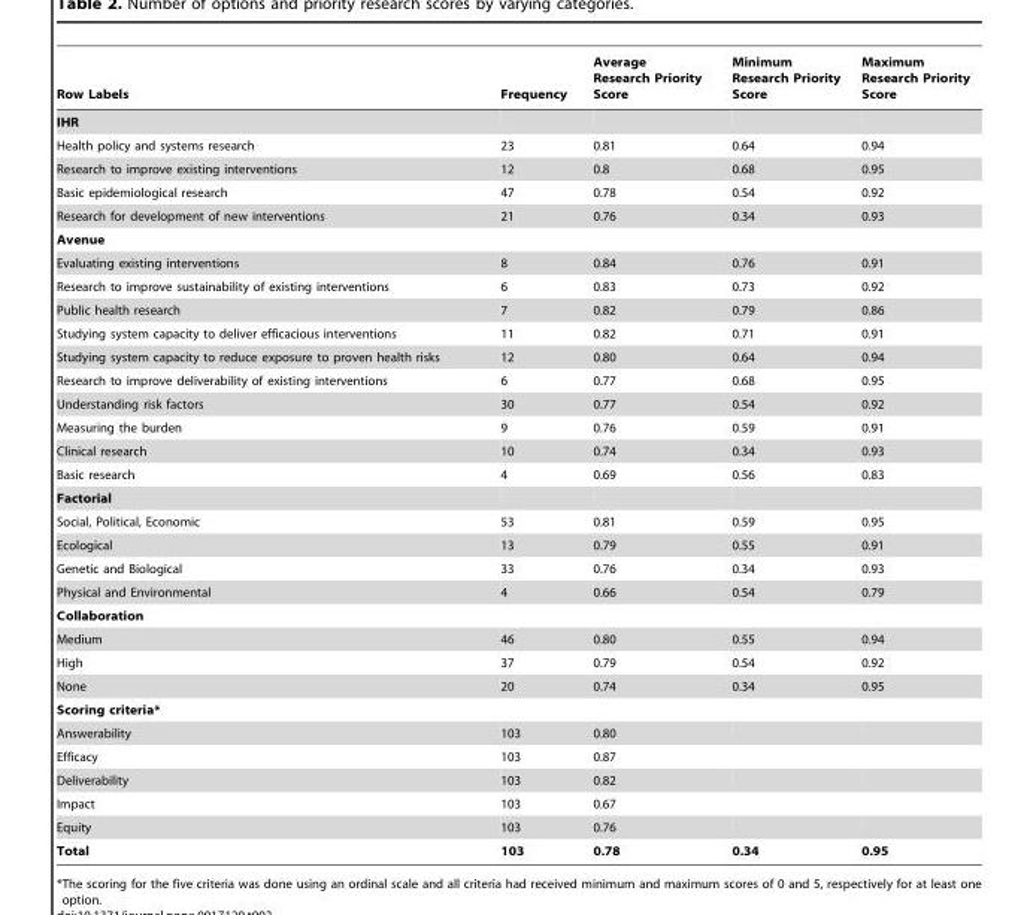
<table><thead><tr><td>Row Labels</td><td>Frequency</td><td>Average Research Priority Score</td><td>Minimum Research Priority Score</td><td>Maximum Research Priority Score</td></tr></thead><tbody><tr><td colspan="5">IHR</td></tr><tr><td>Health policy and systems research</td><td>23</td><td>0.81</td><td>0.64</td><td>0.94</td></tr><tr><td>Research to improve existing interventions</td><td>12</td><td>0.8</td><td>0.68</td><td>0.95</td></tr><tr><td>Basic epidemiological research</td><td>47</td><td>0.78</td><td>0.54</td><td>0.92</td></tr><tr><td>Research for development of new interventions</td><td>21</td><td>0.76</td><td>0.34</td><td>0.93</td></tr><tr><td colspan="5">Avenue</td></tr><tr><td>Evaluating existing interventions</td><td>8</td><td>0.84</td><td>0.76</td><td>0.91</td></tr><tr><td>Research to improve sustainability of existing interventions</td><td>6</td><td>0.83</td><td>0.73</td><td>0.92</td></tr><tr><td>Public health research</td><td>7</td><td>0.82</td><td>0.79</td><td>0.86</td></tr><tr><td>Studying system capacity to deliver efficacious interventions</td><td>11</td><td>0.82</td><td>0.71</td><td>0.91</td></tr><tr><td>Studying system capacity to reduce exposure to proven health risks</td><td>12</td><td>0.80</td><td>0.64</td><td>0.94</td></tr><tr><td>Research to improve deliverability of existing interventions</td><td>6</td><td>0.77</td><td>0.68</td><td>0.95</td></tr><tr><td>Understanding risk factors</td><td>30</td><td>0.77</td><td>0.54</td><td>0.92</td></tr><tr><td>Measuring the burden</td><td>9</td><td>0.76</td><td>0.59</td><td>0.91</td></tr><tr><td>Clinical research</td><td>10</td><td>0.74</td><td>0.34</td><td>0.93</td></tr><tr><td>Basic research</td><td>4</td><td>0.69</td><td>0.56</td><td>0.83</td></tr><tr><td colspan="5">Factorial</td></tr><tr><td>Social, Political, Economic</td><td>53</td><td>0.81</td><td>0.59</td><td>0.95</td></tr><tr><td>Ecological</td><td>13</td><td>0.79</td><td>0.55</td><td>0.91</td></tr><tr><td>Genetic and Biological</td><td>33</td><td>0.76</td><td>0.34</td><td>0.93</td></tr><tr><td>Physical and Environmental</td><td>4</td><td>0.66</td><td>0.54</td><td>0.79</td></tr><tr><td colspan="5">Collaboration</td></tr><tr><td>Medium</td><td>46</td><td>0.80</td><td>0.55</td><td>0.94</td></tr><tr><td>High</td><td>37</td><td>0.79</td><td>0.54</td><td>0.92</td></tr><tr><td>None</td><td>20</td><td>0.74</td><td>0.34</td><td>0.95</td></tr><tr><td colspan="5">Scoring criteria*</td></tr><tr><td>Answerability</td><td>103</td><td>0.80</td><td></td><td></td></tr><tr><td>Efficacy</td><td>103</td><td>0.87</td><td></td><td></td></tr><tr><td>Deliverability</td><td>103</td><td>0.82</td><td></td><td></td></tr><tr><td>Impact</td><td>103</td><td>0.67</td><td></td><td></td></tr><tr><td>Equity</td><td>103</td><td>0.76</td><td></td><td></td></tr><tr><td>Total</td><td>103</td><td>0.78</td><td>0.34</td><td>0.95</td></tr></tbody></table>